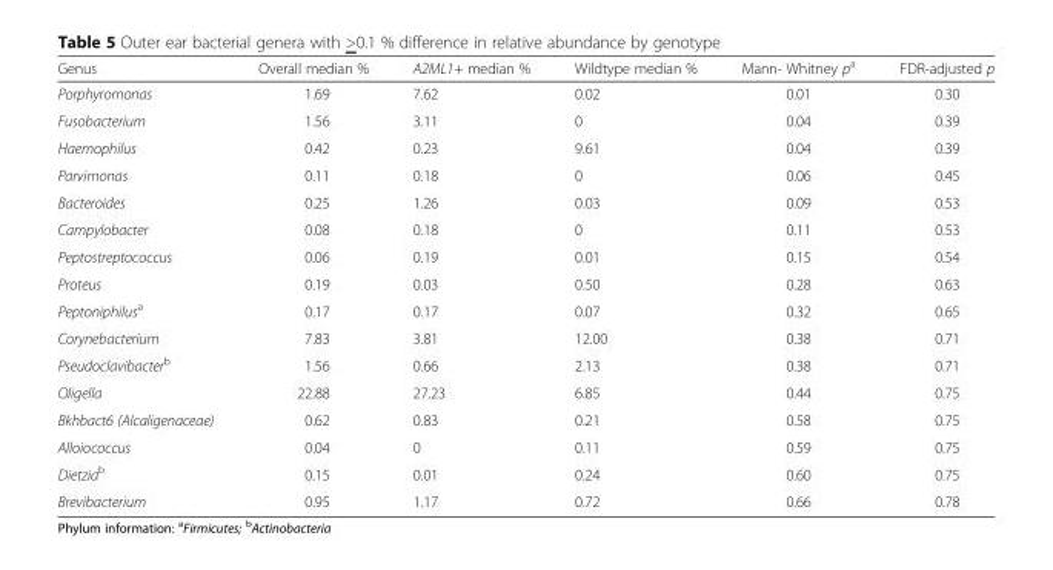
<table><thead><tr><td>Genus</td><td>Overall median %</td><td>A2ML1+ median %</td><td>Wildtype median %</td><td>Mann- Whitney p<sup>a</sup></td><td>FDR-adjusted p</td></tr></thead><tbody><tr><td>Porphyromonas</td><td>1.69</td><td>7.62</td><td>0.02</td><td>0.01</td><td>0.30</td></tr><tr><td>Fusobacterium</td><td>1.56</td><td>3.11</td><td>0</td><td>0.04</td><td>0.39</td></tr><tr><td>Haemophilus</td><td>0.42</td><td>0.23</td><td>9.61</td><td>0.04</td><td>0.39</td></tr><tr><td>Parvimonas</td><td>0.11</td><td>0.18</td><td>0</td><td>0.06</td><td>0.45</td></tr><tr><td>Bacteroides</td><td>0.25</td><td>1.26</td><td>0.03</td><td>0.09</td><td>0.53</td></tr><tr><td>Campylobacter</td><td>0.08</td><td>0.18</td><td>0</td><td>0.11</td><td>0.53</td></tr><tr><td>Peptostreptococcus</td><td>0.06</td><td>0.19</td><td>0.01</td><td>0.15</td><td>0.54</td></tr><tr><td>Proteus</td><td>0.19</td><td>0.03</td><td>0.50</td><td>0.28</td><td>0.63</td></tr><tr><td>Peptoniphilus<sup>a</sup></td><td>0.17</td><td>0.17</td><td>0.07</td><td>0.32</td><td>0.65</td></tr><tr><td>Corynebacterium</td><td>7.83</td><td>3.81</td><td>12.00</td><td>0.38</td><td>0.71</td></tr><tr><td>Pseudoclavibacter<sup>b</sup></td><td>1.56</td><td>0.66</td><td>2.13</td><td>0.38</td><td>0.71</td></tr><tr><td>Oligella</td><td>22.88</td><td>27.23</td><td>6.85</td><td>0.44</td><td>0.75</td></tr><tr><td>Bkhbact6 (Alcaligenaceae)</td><td>0.62</td><td>0.83</td><td>0.21</td><td>0.58</td><td>0.75</td></tr><tr><td>Alloiococcus</td><td>0.04</td><td>0</td><td>0.11</td><td>0.59</td><td>0.75</td></tr><tr><td>Dietzia<sup>b</sup></td><td>0.15</td><td>0.01</td><td>0.24</td><td>0.60</td><td>0.75</td></tr><tr><td>Brevibacterium</td><td>0.95</td><td>1.17</td><td>0.72</td><td>0.66</td><td>0.78</td></tr></tbody></table>